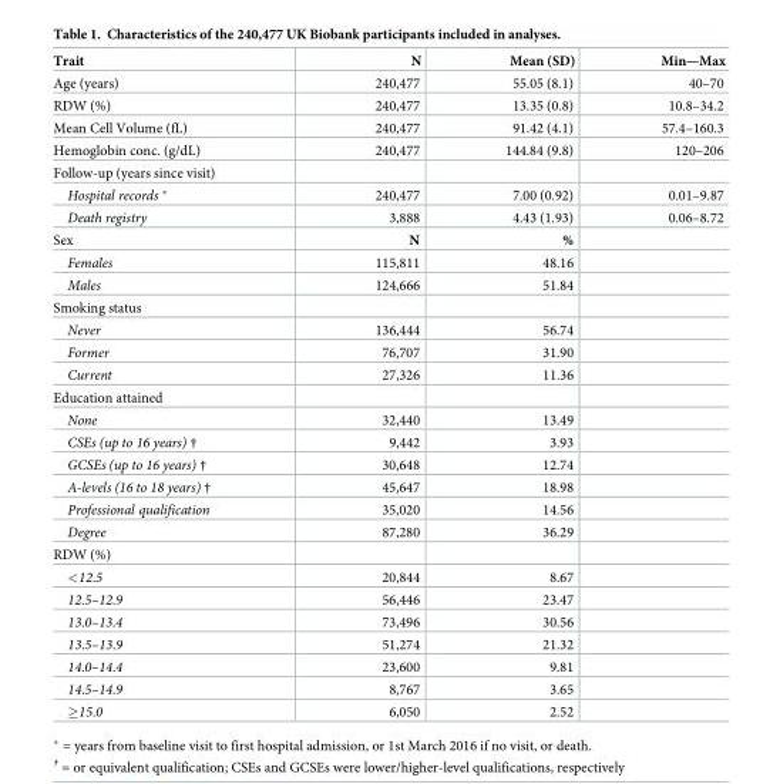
<table><thead><tr><td>Trait</td><td>N</td><td>Mean (SD)</td><td>Min—Max</td></tr></thead><tbody><tr><td>Age (years)</td><td>240,477</td><td>55.05 (8.1)</td><td>40–70</td></tr><tr><td>RDW (%)</td><td>240,477</td><td>13.35 (0.8)</td><td>10.8–34.2</td></tr><tr><td>Mean Cell Volume (fL)</td><td>240,477</td><td>91.42 (4.1)</td><td>57.4–160.3</td></tr><tr><td>Hemoglobin conc. (g/dL)</td><td>240,477</td><td>144.84 (9.8)</td><td>120–206</td></tr><tr><td colspan="4">Follow-up (years since visit)</td></tr><tr><td>Hospital records *</td><td>240,477</td><td>7.00 (0.92)</td><td>0.01–9.87</td></tr><tr><td>Death registry</td><td>3,888</td><td>4.43 (1.93)</td><td>0.06–8.72</td></tr><tr><td>Sex</td><td>N</td><td>%</td><td></td></tr><tr><td>Females</td><td>115,811</td><td>48.16</td><td></td></tr><tr><td>Males</td><td>124,666</td><td>51.84</td><td></td></tr><tr><td colspan="4">Smoking status</td></tr><tr><td>Never</td><td>136,444</td><td>56.74</td><td></td></tr><tr><td>Former</td><td>76,707</td><td>31.90</td><td></td></tr><tr><td>Current</td><td>27,326</td><td>11.36</td><td></td></tr><tr><td colspan="4">Education attained</td></tr><tr><td>None</td><td>32,440</td><td>13.49</td><td></td></tr><tr><td>CSEs (up to 16 years) †</td><td>9,442</td><td>3.93</td><td></td></tr><tr><td>GCSEs (up to 16 years) †</td><td>30,648</td><td>12.74</td><td></td></tr><tr><td>A-levels (16 to 18 years) †</td><td>45,647</td><td>18.98</td><td></td></tr><tr><td>Professional qualification</td><td>35,020</td><td>14.56</td><td></td></tr><tr><td>Degree</td><td>87,280</td><td>36.29</td><td></td></tr><tr><td colspan="4">RDW (%)</td></tr><tr><td>&lt;12.5</td><td>20,844</td><td>8.67</td><td></td></tr><tr><td>12.5–12.9</td><td>56,446</td><td>23.47</td><td></td></tr><tr><td>13.0–13.4</td><td>73,496</td><td>30.56</td><td></td></tr><tr><td>13.5–13.9</td><td>51,274</td><td>21.32</td><td></td></tr><tr><td>14.0–14.4</td><td>23,600</td><td>9.81</td><td></td></tr><tr><td>14.5–14.9</td><td>8,767</td><td>3.65</td><td></td></tr><tr><td>≥15.0</td><td>6,050</td><td>2.52</td><td></td></tr></tbody></table>